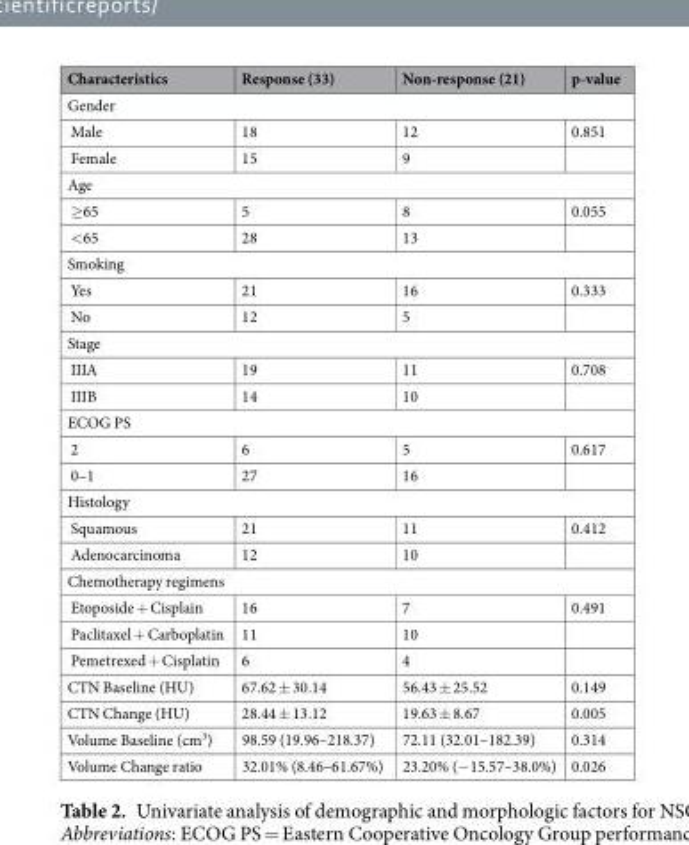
<table><thead><tr><td>Characteristics</td><td>Response (33)</td><td>Non-response (21)</td><td>p-value</td></tr></thead><tbody><tr><td colspan="4">Gender</td></tr><tr><td>Male</td><td>18</td><td>12</td><td>0.851</td></tr><tr><td>Female</td><td>15</td><td>9</td><td></td></tr><tr><td colspan="4">Age</td></tr><tr><td>≥65</td><td>5</td><td>8</td><td>0.055</td></tr><tr><td>&lt;65</td><td>28</td><td>13</td><td></td></tr><tr><td colspan="4">Smoking</td></tr><tr><td>Yes</td><td>21</td><td>16</td><td>0.333</td></tr><tr><td>No</td><td>12</td><td>5</td><td></td></tr><tr><td colspan="4">Stage</td></tr><tr><td>IIIA</td><td>19</td><td>11</td><td>0.708</td></tr><tr><td>IIIB</td><td>14</td><td>10</td><td></td></tr><tr><td colspan="4">ECOG PS</td></tr><tr><td>2</td><td>6</td><td>5</td><td>0.617</td></tr><tr><td>0–1</td><td>27</td><td>16</td><td></td></tr><tr><td colspan="4">Histology</td></tr><tr><td>Squamous</td><td>21</td><td>11</td><td>0.412</td></tr><tr><td>Adenocarcinoma</td><td>12</td><td>10</td><td></td></tr><tr><td colspan="4">Chemotherapy regimens</td></tr><tr><td>Etoposide + Cisplain</td><td>16</td><td>7</td><td>0.491</td></tr><tr><td>Paclitaxel + Carboplatin</td><td>11</td><td>10</td><td></td></tr><tr><td>Pemetrexed + Cisplatin</td><td>6</td><td>4</td><td></td></tr><tr><td>CTN Baseline (HU)</td><td>67.62 ± 30.14</td><td>56.43 ± 25.52</td><td>0.149</td></tr><tr><td>CTN Change (HU)</td><td>28.44 ± 13.12</td><td>19.63 ± 8.67</td><td>0.005</td></tr><tr><td>Volume Baseline (cm<sup>3</sup>)</td><td>98.59 (19.96–218.37)</td><td>72.11 (32.01–182.39)</td><td>0.314</td></tr><tr><td>Volume Change ratio</td><td>32.01% (8.46–61.67%)</td><td>23.20% (−15.57–38.0%)</td><td>0.026</td></tr></tbody></table>